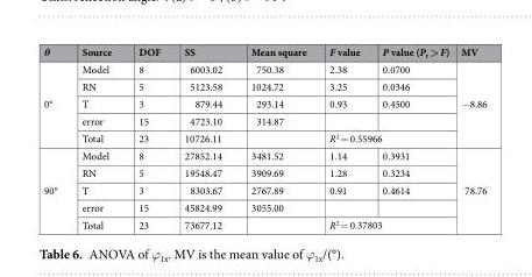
<table><thead><tr><td>θ</td><td>Source</td><td>DOF</td><td>SS</td><td>Mean square</td><td>F value</td><td>P value (P<sub>r</sub> &gt; F)</td><td>MV</td></tr></thead><tbody><tr><td rowspan="5">0°</td><td>Model</td><td>8</td><td>6003.02</td><td>750.38</td><td>2.38</td><td>0.0700</td><td rowspan="5">−8.86</td></tr><tr><td>RN</td><td>5</td><td>5123.58</td><td>1024.72</td><td>3.25</td><td>0.0346</td></tr><tr><td>T</td><td>3</td><td>879.44</td><td>293.14</td><td>0.93</td><td>0.4500</td></tr><tr><td>error</td><td>15</td><td>4723.10</td><td>314.87</td><td></td><td></td></tr><tr><td>Total</td><td>23</td><td>10726.11</td><td></td><td colspan="2">R<sup>2</sup> = 0.55966</td></tr><tr><td rowspan="5">90°</td><td>Model</td><td>8</td><td>27852.14</td><td>3481.52</td><td>1.14</td><td>0.3931</td><td rowspan="5">78.76</td></tr><tr><td>RN</td><td>5</td><td>19548.47</td><td>3909.69</td><td>1.28</td><td>0.3234</td></tr><tr><td>T</td><td>3</td><td>8303.67</td><td>2767.89</td><td>0.91</td><td>0.4614</td></tr><tr><td>error</td><td>15</td><td>45824.99</td><td>3055.00</td><td></td><td></td></tr><tr><td>Total</td><td>23</td><td>73677.12</td><td></td><td colspan="2">R<sup>2</sup> = 0.37803</td></tr></tbody></table>